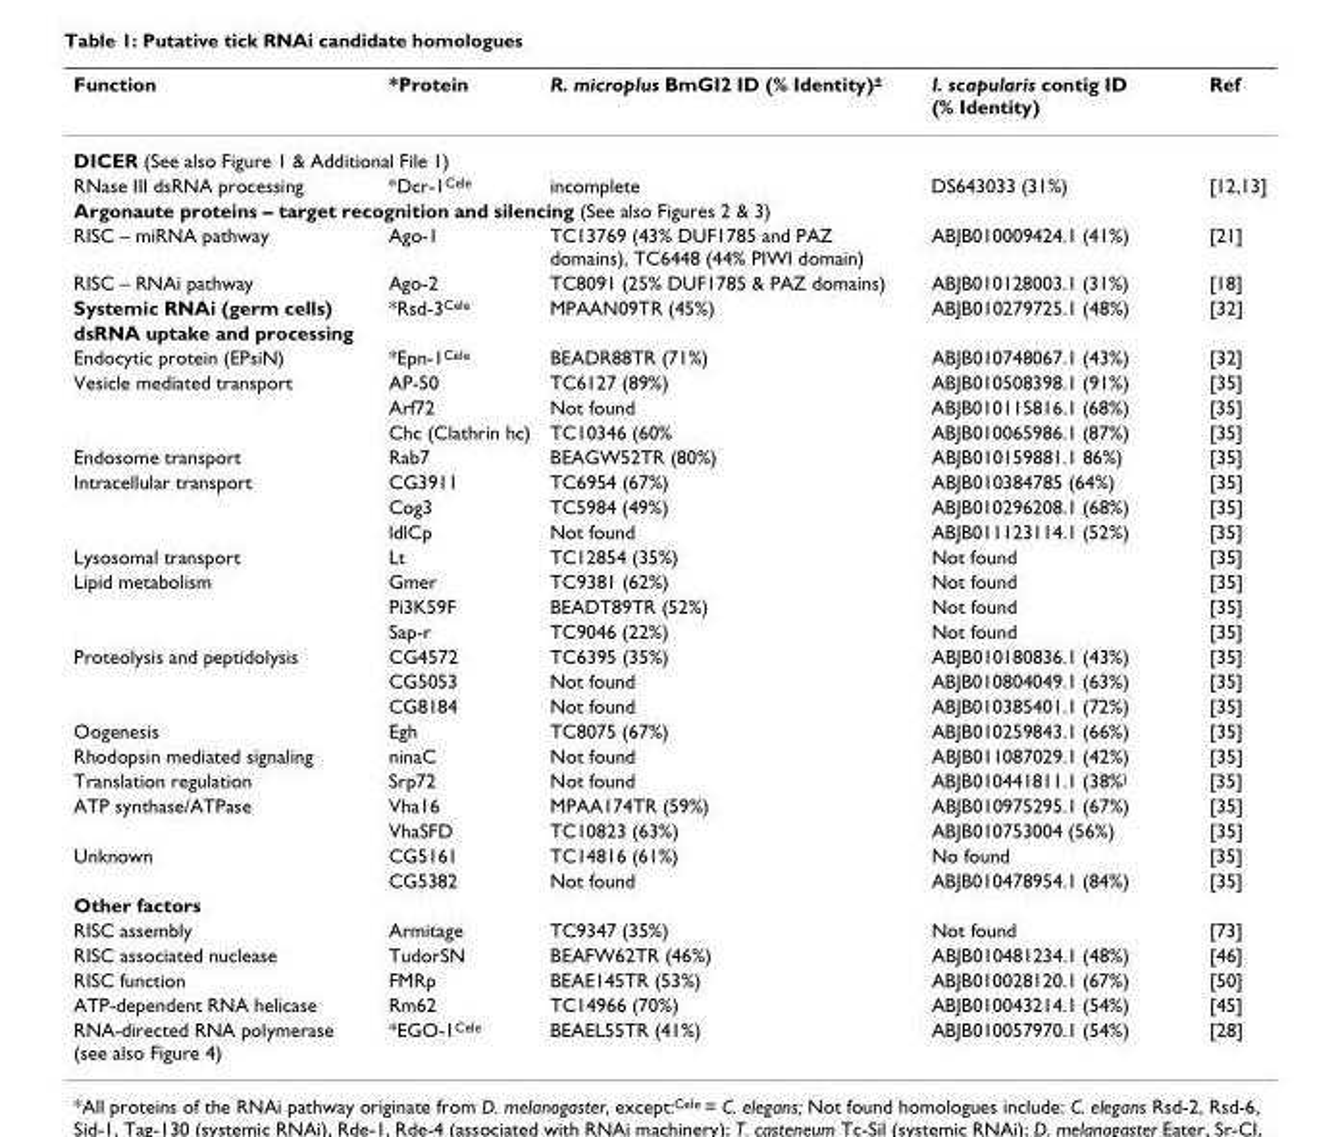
<table><thead><tr><td>Function</td><td>*Protein</td><td>R. microplus BmGI2 ID (% Identity)<sup>±</sup></td><td>I. scapularis contig ID (% Identity)</td><td>Ref</td></tr></thead><tbody><tr><td colspan="5">DICER (See also Figure 1 &amp; Additional File 1)</td></tr><tr><td>RNase III dsRNA processing</td><td>*Dcr-1<sup>Cele</sup></td><td>incomplete</td><td>DS643033 (31%)</td><td>[12,13]</td></tr><tr><td colspan="5">Argonaute proteins – target recognition and silencing (See also Figures 2 &amp; 3)</td></tr><tr><td>RISC – miRNA pathway</td><td>Ago-1</td><td>TC13769 (43% DUF1785 and PAZ domains), TC6448 (44% PIWI domain)</td><td>ABJB010009424.1 (41%)</td><td>[21]</td></tr><tr><td>RISC – RNAi pathway</td><td>Ago-2</td><td>TC8091 (25% DUF1785 &amp; PAZ domains)</td><td>ABJB010128003.1 (31%)</td><td>[18]</td></tr><tr><td>Systemic RNAi (germ cells)</td><td>*Rsd-3<sup>Cele</sup></td><td>MPAAN09TR (45%)</td><td>ABJB010279725.1 (48%)</td><td>[32]</td></tr><tr><td colspan="5">dsRNA uptake and processing</td></tr><tr><td>Endocytic protein (EPsiN)</td><td>*Epn-1<sup>Cele</sup></td><td>BEADR88TR (71%)</td><td>ABJB010748067.1 (43%)</td><td>[32]</td></tr><tr><td rowspan="3">Vesicle mediated transport</td><td>AP-50</td><td>TC6127 (89%)</td><td>ABJB010508398.1 (91%)</td><td>[35]</td></tr><tr><td>Arf72</td><td>Not found</td><td>ABJB010115816.1 (68%)</td><td>[35]</td></tr><tr><td>Chc (Clathrin hc)</td><td>TC10346 (60%</td><td>ABJB010065986.1 (87%)</td><td>[35]</td></tr><tr><td>Endosome transport</td><td>Rab7</td><td>BEAGW52TR (80%)</td><td>ABJB010159881.1 86%)</td><td>[35]</td></tr><tr><td rowspan="3">Intracellular transport</td><td>CG3911</td><td>TC6954 (67%)</td><td>ABJB010384785 (64%)</td><td>[35]</td></tr><tr><td>Cog3</td><td>TC5984 (49%)</td><td>ABJB010296208.1 (68%)</td><td>[35]</td></tr><tr><td>ldlCp</td><td>Not found</td><td>ABJB011123114.1 (52%)</td><td>[35]</td></tr><tr><td>Lysosomal transport</td><td>Lt</td><td>TC12854 (35%)</td><td>Not found</td><td>[35]</td></tr><tr><td rowspan="3">Lipid metabolism</td><td>Gmer</td><td>TC9381 (62%)</td><td>Not found</td><td>[35]</td></tr><tr><td>Pi3K59F</td><td>BEADT89TR (52%)</td><td>Not found</td><td>[35]</td></tr><tr><td>Sap-r</td><td>TC9046 (22%)</td><td>Not found</td><td>[35]</td></tr><tr><td rowspan="3">Proteolysis and peptidolysis</td><td>CG4572</td><td>TC6395 (35%)</td><td>ABJB010180836.1 (43%)</td><td>[35]</td></tr><tr><td>CG5053</td><td>Not found</td><td>ABJB010804049.1 (63%)</td><td>[35]</td></tr><tr><td>CG8184</td><td>Not found</td><td>ABJB010385401.1 (72%)</td><td>[35]</td></tr><tr><td>Oogenesis</td><td>Egh</td><td>TC8075 (67%)</td><td>ABJB010259843.1 (66%)</td><td>[35]</td></tr><tr><td>Rhodopsin mediated signaling</td><td>ninaC</td><td>Not found</td><td>ABJB011087029.1 (42%)</td><td>[35]</td></tr><tr><td>Translation regulation</td><td>Srp72</td><td>Not found</td><td>ABJB010441811.1 (38%<sup>)</sup></td><td>[35]</td></tr><tr><td rowspan="2">ATP synthase/ATPase</td><td>Vha16</td><td>MPAA174TR (59%)</td><td>ABJB010975295.1 (67%)</td><td>[35]</td></tr><tr><td>VhaSFD</td><td>TC10823 (63%)</td><td>ABJB010753004 (56%)</td><td>[35]</td></tr><tr><td rowspan="2">Unknown</td><td>CG5161</td><td>TC14816 (61%)</td><td>No found</td><td>[35]</td></tr><tr><td>CG5382</td><td>Not found</td><td>ABJB010478954.1 (84%)</td><td>[35]</td></tr><tr><td colspan="5">Other factors</td></tr><tr><td>RISC assembly</td><td>Armitage</td><td>TC9347 (35%)</td><td>Not found</td><td>[73]</td></tr><tr><td>RISC associated nuclease</td><td>TudorSN</td><td>BEAFW62TR (46%)</td><td>ABJB010481234.1 (48%)</td><td>[46]</td></tr><tr><td>RISC function</td><td>FMRp</td><td>BEAE145TR (53%)</td><td>ABJB010028120.1 (67%)</td><td>[50]</td></tr><tr><td>ATP-dependent RNA helicase</td><td>Rm62</td><td>TC14966 (70%)</td><td>ABJB010043214.1 (54%)</td><td>[45]</td></tr><tr><td>RNA-directed RNA polymerase (see also Figure 4)</td><td>*EGO-1<sup>Cele</sup></td><td>BEAEL55TR (41%)</td><td>ABJB010057970.1 (54%)</td><td>[28]</td></tr></tbody></table>